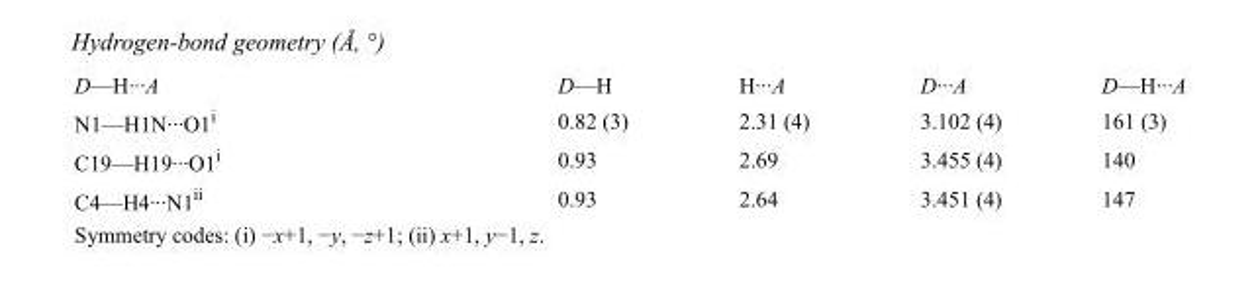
<table><tbody><tr><td>D—H···A</td><td>D—H</td><td>H···A</td><td>D···A</td><td>D—H···A</td></tr><tr><td>N1—H1N···O1<sup>i</sup></td><td>0.82 (3)</td><td>2.31 (4)</td><td>3.102 (4)</td><td>161 (3)</td></tr><tr><td>C19—H19···O1<sup>i</sup></td><td>0.93</td><td>2.69</td><td>3.455 (4)</td><td>140</td></tr><tr><td>C4—H4···N1<sup>ii</sup></td><td>0.93</td><td>2.64</td><td>3.451 (4)</td><td>147</td></tr></tbody></table>